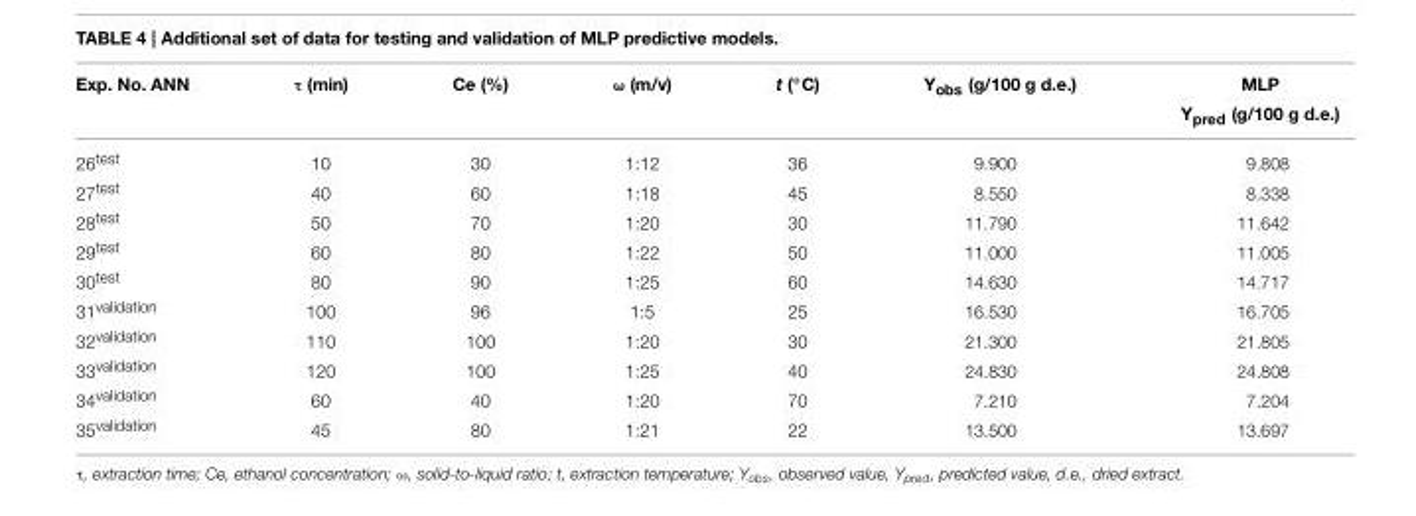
<table><thead><tr><td rowspan="2">Exp. No. ANN</td><td rowspan="2">τ (min)</td><td rowspan="2">Ce (%)</td><td rowspan="2">ω (m/v)</td><td rowspan="2">t (◦C)</td><td rowspan="2">Y<sub>obs</sub> (g/100 g d.e.)</td><td rowspan="2">MLP Y<sub>pred</sub> (g/100 g d.e.)</td></tr><tr></tr></thead><tbody><tr><td>26<sup>test</sup></td><td>10</td><td>30</td><td>1:12</td><td>36</td><td>9.900</td><td>9.808</td></tr><tr><td>27<sup>test</sup></td><td>40</td><td>60</td><td>1:18</td><td>45</td><td>8.550</td><td>8.338</td></tr><tr><td>28<sup>test</sup></td><td>50</td><td>70</td><td>1:20</td><td>30</td><td>11.790</td><td>11.642</td></tr><tr><td>29<sup>test</sup></td><td>60</td><td>80</td><td>1:22</td><td>50</td><td>11.000</td><td>11.005</td></tr><tr><td>30<sup>test</sup></td><td>80</td><td>90</td><td>1:25</td><td>60</td><td>14.630</td><td>14.717</td></tr><tr><td>31<sup>validation</sup></td><td>100</td><td>96</td><td>1:5</td><td>25</td><td>16.530</td><td>16.705</td></tr><tr><td>32<sup>validation</sup></td><td>110</td><td>100</td><td>1:20</td><td>30</td><td>21.300</td><td>21.805</td></tr><tr><td>33<sup>validation</sup></td><td>120</td><td>100</td><td>1:25</td><td>40</td><td>24.830</td><td>24.808</td></tr><tr><td>34<sup>validation</sup></td><td>60</td><td>40</td><td>1:20</td><td>70</td><td>7.210</td><td>7.204</td></tr><tr><td>35<sup>validation</sup></td><td>45</td><td>80</td><td>1:21</td><td>22</td><td>13.500</td><td>13.697</td></tr></tbody></table>